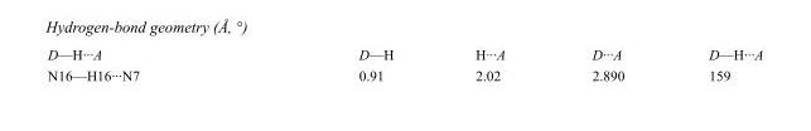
<table><tbody><tr><td>D—H···A</td><td>D—H</td><td>H···A</td><td>D···A</td><td>D—H···A</td></tr><tr><td>N16—H16···N7</td><td>0.91</td><td>2.02</td><td>2.890</td><td>159</td></tr></tbody></table>